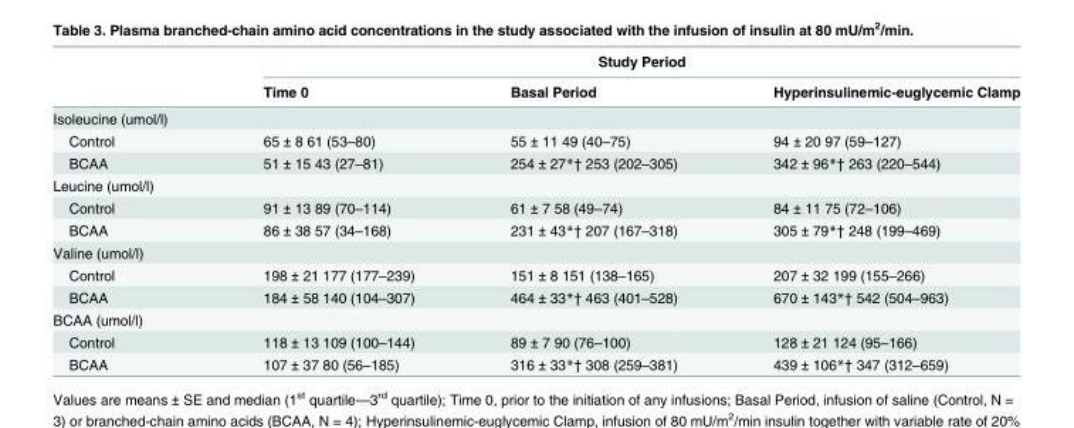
<table><thead><tr><td rowspan="2"></td><td colspan="3">Study Period</td></tr><tr><td>Time 0</td><td>Basal Period</td><td>Hyperinsulinemic-euglycemic Clamp</td></tr></thead><tbody><tr><td colspan="4">Isoleucine (umol/l)</td></tr><tr><td>Control</td><td>65 ± 8 61 (53–80)</td><td>55 ± 11 49 (40–75)</td><td>94 ± 20 97 (59–127)</td></tr><tr><td>BCAA</td><td>51 ± 15 43 (27–81)</td><td>254 ± 27*† 253 (202–305)</td><td>342 ± 96*† 263 (220–544)</td></tr><tr><td colspan="4">Leucine (umol/l)</td></tr><tr><td>Control</td><td>91 ± 13 89 (70–114)</td><td>61 ± 7 58 (49–74)</td><td>84 ± 11 75 (72–106)</td></tr><tr><td>BCAA</td><td>86 ± 38 57 (34–168)</td><td>231 ± 43*† 207 (167–318)</td><td>305 ± 79*† 248 (199–469)</td></tr><tr><td colspan="4">Valine (umol/l)</td></tr><tr><td>Control</td><td>198 ± 21 177 (177–239)</td><td>151 ± 8 151 (138–165)</td><td>207 ± 32 199 (155–266)</td></tr><tr><td>BCAA</td><td>184 ± 58 140 (104–307)</td><td>464 ± 33*† 463 (401–528)</td><td>670 ± 143*† 542 (504–963)</td></tr><tr><td colspan="4">BCAA (umol/l)</td></tr><tr><td>Control</td><td>118 ± 13 109 (100–144)</td><td>89 ± 7 90 (76–100)</td><td>128 ± 21 124 (95–166)</td></tr><tr><td>BCAA</td><td>107 ± 37 80 (56–185)</td><td>316 ± 33*† 308 (259–381)</td><td>439 ± 106*† 347 (312–659)</td></tr></tbody></table>